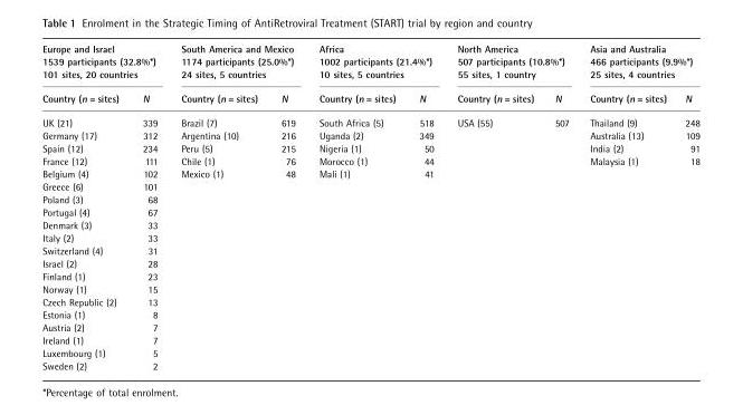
<table><thead><tr><td colspan="2">Europe and Israel 1539 participants (32.8%*) 101 sites, 20 countries</td><td colspan="2">South America and Mexico 1174 participants (25.0%*) 24 sites, 5 countries</td><td colspan="2">Africa 1002 participants (21.4%*) 10 sites, 5 countries</td><td colspan="2">North America 507 participants (10.8%*) 55 sites, 1 country</td><td colspan="2">Asia and Australia 466 participants (9.9%*) 25 sites, 4 countries</td></tr><tr><td>Country (n = sites)</td><td>N</td><td>Country (n = sites)</td><td>N</td><td>Country (n = sites)</td><td>N</td><td>Country (n = sites)</td><td>N</td><td>Country (n = sites)</td><td>N</td></tr></thead><tbody><tr><td>UK (21)</td><td>339</td><td>Brazil (7)</td><td>619</td><td>South Africa (5)</td><td>518</td><td>USA (55)</td><td>507</td><td>Thailand (9)</td><td>248</td></tr><tr><td>Germany (17)</td><td>312</td><td>Argentina (10)</td><td>216</td><td>Uganda (2)</td><td>349</td><td></td><td></td><td>Australia (13)</td><td>109</td></tr><tr><td>Spain (12)</td><td>234</td><td>Peru (5)</td><td>215</td><td>Nigeria (1)</td><td>50</td><td></td><td></td><td>India (2)</td><td>91</td></tr><tr><td>France (12)</td><td>111</td><td>Chile (1)</td><td>76</td><td>Morocco (1)</td><td>44</td><td></td><td></td><td>Malaysia (1)</td><td>18</td></tr><tr><td>Belgium (4)</td><td>102</td><td>Mexico (1)</td><td>48</td><td>Mali (1)</td><td>41</td><td></td><td></td><td></td><td></td></tr><tr><td>Greece (6)</td><td>101</td><td></td><td></td><td></td><td></td><td></td><td></td><td></td><td></td></tr><tr><td>Poland (3)</td><td>68</td><td></td><td></td><td></td><td></td><td></td><td></td><td></td><td></td></tr><tr><td>Portugal (4)</td><td>67</td><td></td><td></td><td></td><td></td><td></td><td></td><td></td><td></td></tr><tr><td>Denmark (3)</td><td>33</td><td></td><td></td><td></td><td></td><td></td><td></td><td></td><td></td></tr><tr><td>Italy (2)</td><td>33</td><td></td><td></td><td></td><td></td><td></td><td></td><td></td><td></td></tr><tr><td>Switzerland (4)</td><td>31</td><td></td><td></td><td></td><td></td><td></td><td></td><td></td><td></td></tr><tr><td>Israel (2)</td><td>28</td><td></td><td></td><td></td><td></td><td></td><td></td><td></td><td></td></tr><tr><td>Finland (1)</td><td>23</td><td></td><td></td><td></td><td></td><td></td><td></td><td></td><td></td></tr><tr><td>Norway (1)</td><td>15</td><td></td><td></td><td></td><td></td><td></td><td></td><td></td><td></td></tr><tr><td>Czech Republic (2)</td><td>13</td><td></td><td></td><td></td><td></td><td></td><td></td><td></td><td></td></tr><tr><td>Estonia (1)</td><td>8</td><td></td><td></td><td></td><td></td><td></td><td></td><td></td><td></td></tr><tr><td>Austria (2)</td><td>7</td><td></td><td></td><td></td><td></td><td></td><td></td><td></td><td></td></tr><tr><td>Ireland (1)</td><td>7</td><td></td><td></td><td></td><td></td><td></td><td></td><td></td><td></td></tr><tr><td>Luxembourg (1)</td><td>5</td><td></td><td></td><td></td><td></td><td></td><td></td><td></td><td></td></tr><tr><td>Sweden (2)</td><td>2</td><td></td><td></td><td></td><td></td><td></td><td></td><td></td><td></td></tr></tbody></table>